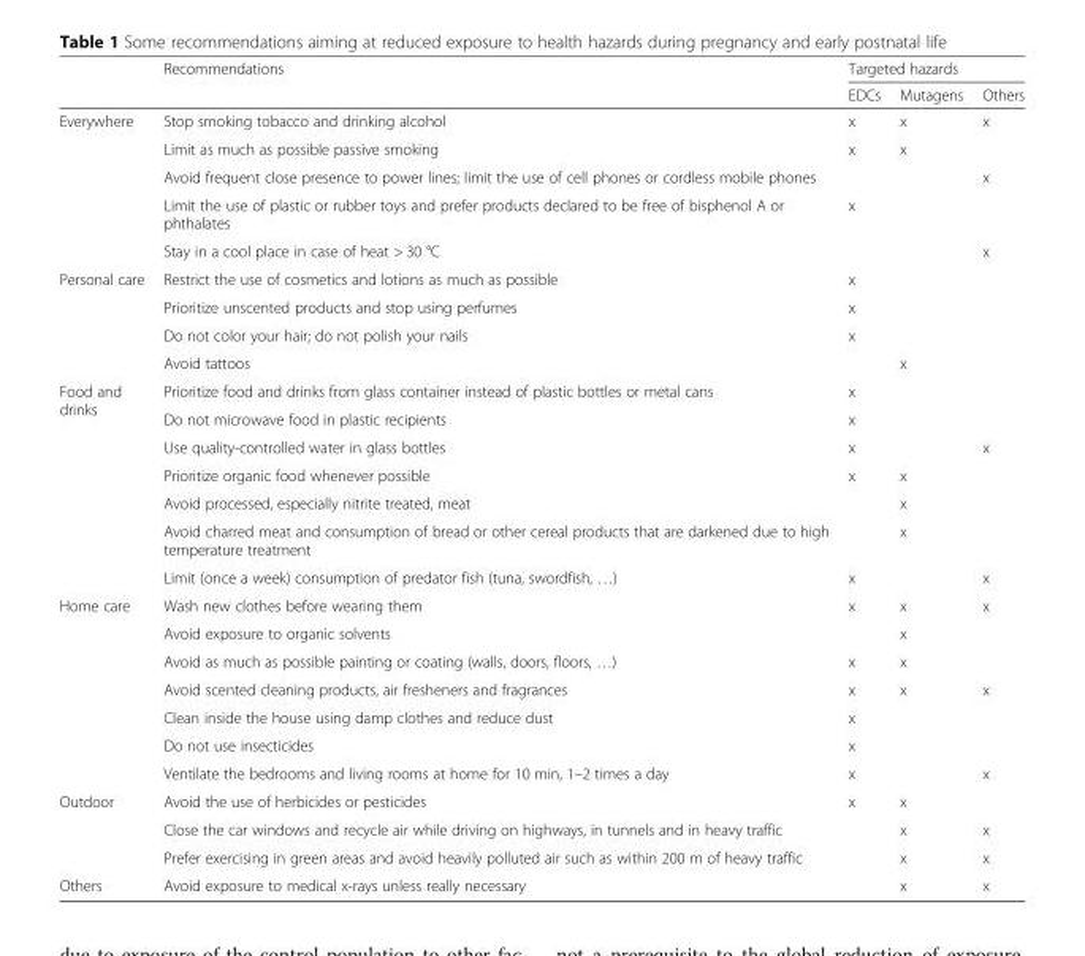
<table><thead><tr><td rowspan="2"></td><td rowspan="2">Recommendations</td><td colspan="3">Targeted hazards</td></tr><tr><td>EDCs</td><td>Mutagens</td><td>Others</td></tr></thead><tbody><tr><td rowspan="5">Everywhere</td><td>Stop smoking tobacco and drinking alcohol</td><td>x</td><td>x</td><td>x</td></tr><tr><td>Limit as much as possible passive smoking</td><td>x</td><td>x</td><td></td></tr><tr><td>Avoid frequent close presence to power lines; limit the use of cell phones or cordless mobile phones</td><td></td><td></td><td>x</td></tr><tr><td>Limit the use of plastic or rubber toys and prefer products declared to be free of bisphenol A or phthalates</td><td>x</td><td></td><td></td></tr><tr><td>Stay in a cool place in case of heat &gt; 30 °C</td><td></td><td></td><td>x</td></tr><tr><td rowspan="4">Personal care</td><td>Restrict the use of cosmetics and lotions as much as possible</td><td>x</td><td></td><td></td></tr><tr><td>Prioritize unscented products and stop using perfumes</td><td>x</td><td></td><td></td></tr><tr><td>Do not color your hair; do not polish your nails</td><td>x</td><td></td><td></td></tr><tr><td>Avoid tattoos</td><td></td><td>x</td><td></td></tr><tr><td rowspan="7">Food and drinks</td><td>Prioritize food and drinks from glass container instead of plastic bottles or metal cans</td><td>x</td><td></td><td></td></tr><tr><td>Do not microwave food in plastic recipients</td><td>x</td><td></td><td></td></tr><tr><td>Use quality-controlled water in glass bottles</td><td>x</td><td></td><td>x</td></tr><tr><td>Prioritize organic food whenever possible</td><td>x</td><td>x</td><td></td></tr><tr><td>Avoid processed, especially nitrite treated, meat</td><td></td><td>x</td><td></td></tr><tr><td>Avoid charred meat and consumption of bread or other cereal products that are darkened due to high temperature treatment</td><td></td><td>x</td><td></td></tr><tr><td>Limit (once a week) consumption of predator fish (tuna, swordfish, …)</td><td>x</td><td></td><td>x</td></tr><tr><td rowspan="7">Home care</td><td>Wash new clothes before wearing them</td><td>x</td><td>x</td><td>x</td></tr><tr><td>Avoid exposure to organic solvents</td><td></td><td>x</td><td></td></tr><tr><td>Avoid as much as possible painting or coating (walls, doors, floors, …)</td><td>x</td><td>x</td><td></td></tr><tr><td>Avoid scented cleaning products, air fresheners and fragrances</td><td>x</td><td>x</td><td>x</td></tr><tr><td>Clean inside the house using damp clothes and reduce dust</td><td>x</td><td></td><td></td></tr><tr><td>Do not use insecticides</td><td>x</td><td></td><td></td></tr><tr><td>Ventilate the bedrooms and living rooms at home for 10 min, 1–2 times a day</td><td>x</td><td></td><td>x</td></tr><tr><td rowspan="3">Outdoor</td><td>Avoid the use of herbicides or pesticides</td><td>x</td><td>x</td><td></td></tr><tr><td>Close the car windows and recycle air while driving on highways, in tunnels and in heavy traffic</td><td></td><td>x</td><td>x</td></tr><tr><td>Prefer exercising in green areas and avoid heavily polluted air such as within 200 m of heavy traffic</td><td></td><td>x</td><td>x</td></tr><tr><td>Others</td><td>Avoid exposure to medical x-rays unless really necessary</td><td></td><td>x</td><td>x</td></tr></tbody></table>